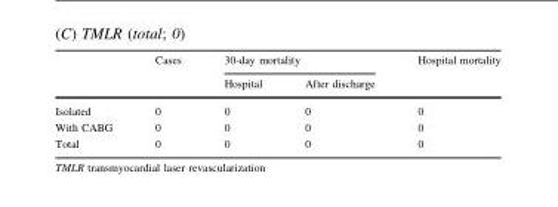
<table><thead><tr><td rowspan="2"></td><td rowspan="2">Cases</td><td colspan="2">30-day mortality</td><td rowspan="2">Hospital mortality</td></tr><tr><td>Hospital</td><td>After discharge</td></tr></thead><tbody><tr><td>Isolated</td><td>0</td><td>0</td><td>0</td><td>0</td></tr><tr><td>With CABG</td><td>0</td><td>0</td><td>0</td><td>0</td></tr><tr><td>Total</td><td>0</td><td>0</td><td>0</td><td>0</td></tr></tbody></table>